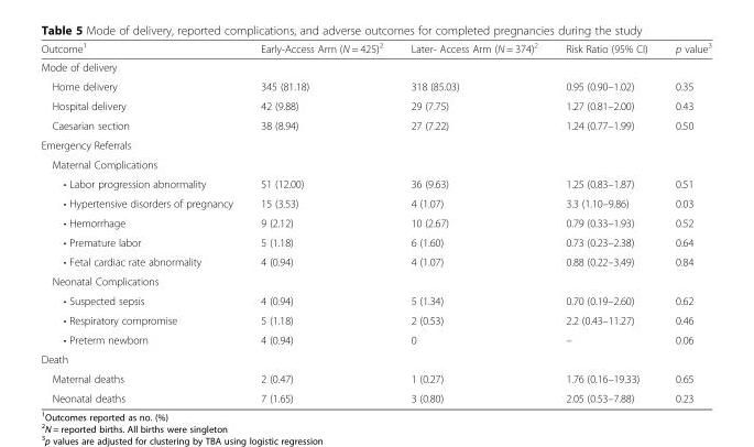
<table><thead><tr><td>Outcome<sup>1</sup></td><td>Early-Access Arm (N = 425)<sup>2</sup></td><td>Later- Access Arm (N = 374)<sup>2</sup></td><td>Risk Ratio (95% CI)</td><td>p value<sup>3</sup></td></tr></thead><tbody><tr><td colspan="5">Mode of delivery</td></tr><tr><td>Home delivery</td><td>345 (81.18)</td><td>318 (85.03)</td><td>0.95 (0.90–1.02)</td><td>0.35</td></tr><tr><td>Hospital delivery</td><td>42 (9.88)</td><td>29 (7.75)</td><td>1.27 (0.81–2.00)</td><td>0.43</td></tr><tr><td>Caesarian section</td><td>38 (8.94)</td><td>27 (7.22)</td><td>1.24 (0.77–1.99)</td><td>0.50</td></tr><tr><td colspan="5">Emergency Referrals</td></tr><tr><td colspan="5">Maternal Complications</td></tr><tr><td>• Labor progression abnormality</td><td>51 (12.00)</td><td>36 (9.63)</td><td>1.25 (0.83–1.87)</td><td>0.51</td></tr><tr><td>• Hypertensive disorders of pregnancy</td><td>15 (3.53)</td><td>4 (1.07)</td><td>3.3 (1.10–9.86)</td><td>0.03</td></tr><tr><td>• Hemorrhage</td><td>9 (2.12)</td><td>10 (2.67)</td><td>0.79 (0.33–1.93)</td><td>0.52</td></tr><tr><td>• Premature labor</td><td>5 (1.18)</td><td>6 (1.60)</td><td>0.73 (0.23–2.38)</td><td>0.64</td></tr><tr><td>• Fetal cardiac rate abnormality</td><td>4 (0.94)</td><td>4 (1.07)</td><td>0.88 (0.22–3.49)</td><td>0.84</td></tr><tr><td colspan="5">Neonatal Complications</td></tr><tr><td>• Suspected sepsis</td><td>4 (0.94)</td><td>5 (1.34)</td><td>0.70 (0.19–2.60)</td><td>0.62</td></tr><tr><td>• Respiratory compromise</td><td>5 (1.18)</td><td>2 (0.53)</td><td>2.2 (0.43–11.27)</td><td>0.46</td></tr><tr><td>• Preterm newborn</td><td>4 (0.94)</td><td>0</td><td>–</td><td>0.06</td></tr><tr><td colspan="5">Death</td></tr><tr><td>Maternal deaths</td><td>2 (0.47)</td><td>1 (0.27)</td><td>1.76 (0.16–19.33)</td><td>0.65</td></tr><tr><td>Neonatal deaths</td><td>7 (1.65)</td><td>3 (0.80)</td><td>2.05 (0.53–7.88)</td><td>0.23</td></tr></tbody></table>